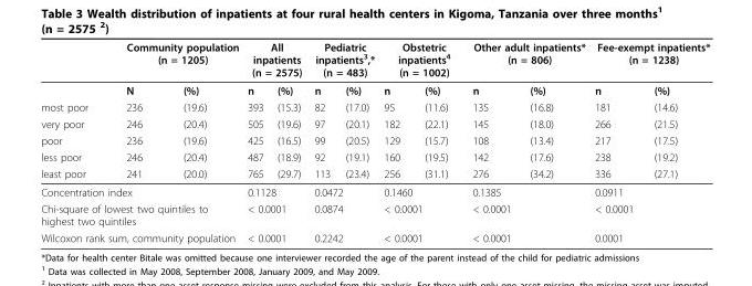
<table><thead><tr><td rowspan="2"></td><td colspan="2">Community population (n = 1205)</td><td colspan="2">All inpatients (n = 2575)</td><td colspan="2">Pediatric inpatients<sup>3</sup>,* (n = 483)</td><td colspan="2">Obstetric inpatients<sup>4</sup> (n = 1002)</td><td colspan="2">Other adult inpatients* (n = 806)</td><td colspan="2">Fee-exempt inpatients* (n = 1238)</td></tr><tr><td>N</td><td>(%)</td><td>n</td><td>(%)</td><td>n</td><td>(%)</td><td>n</td><td>(%)</td><td>n</td><td>(%)</td><td>n</td><td>(%)</td></tr></thead><tbody><tr><td>most poor</td><td>236</td><td>(19.6)</td><td>393</td><td>(15.3)</td><td>82</td><td>(17.0)</td><td>95</td><td>(11.6)</td><td>135</td><td>(16.8)</td><td>181</td><td>(14.6)</td></tr><tr><td>very poor</td><td>246</td><td>(20.4)</td><td>505</td><td>(19.6)</td><td>97</td><td>(20.1)</td><td>182</td><td>(22.1)</td><td>145</td><td>(18.0)</td><td>266</td><td>(21.5)</td></tr><tr><td>poor</td><td>236</td><td>(19.6)</td><td>425</td><td>(16.5)</td><td>99</td><td>(20.5)</td><td>129</td><td>(15.7)</td><td>108</td><td>(13.4)</td><td>217</td><td>(17.5)</td></tr><tr><td>less poor</td><td>246</td><td>(20.4)</td><td>487</td><td>(18.9)</td><td>92</td><td>(19.1)</td><td>160</td><td>(19.5)</td><td>142</td><td>(17.6)</td><td>238</td><td>(19.2)</td></tr><tr><td>least poor</td><td>241</td><td>(20.0)</td><td>765</td><td>(29.7)</td><td>113</td><td>(23.4)</td><td>256</td><td>(31.1)</td><td>276</td><td>(34.2)</td><td>336</td><td>(27.1)</td></tr><tr><td colspan="3">Concentration index</td><td colspan="2">0.1128</td><td colspan="2">0.0472</td><td colspan="2">0.1460</td><td colspan="2">0.1385</td><td colspan="2">0.0911</td></tr><tr><td colspan="3">Chi-square of lowest two quintiles to highest two quintiles</td><td colspan="2">&lt; 0.0001</td><td colspan="2">0.0874</td><td colspan="2">&lt; 0.0001</td><td colspan="2">&lt; 0.0001</td><td colspan="2">&lt; 0.0001</td></tr><tr><td colspan="3">Wilcoxon rank sum, community population</td><td colspan="2">&lt; 0.0001</td><td colspan="2">0.2242</td><td colspan="2">&lt; 0.0001</td><td colspan="2">&lt; 0.0001</td><td colspan="2">0.0001</td></tr></tbody></table>